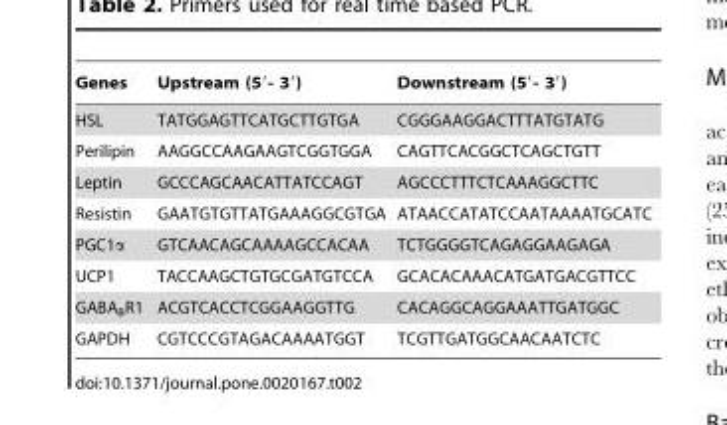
<table><thead><tr><td>Genes</td><td>Upstream (5′- 3′)</td><td>Downstream (5′- 3′)</td></tr></thead><tbody><tr><td>HSL</td><td>TATGGAGTTCATGCTTGTGA</td><td>CGGGAAGGACTTTATGTATG</td></tr><tr><td>Perilipin</td><td>AAGGCCAAGAAGTCGGTGGA</td><td>CAGTTCACGGCTCAGCTGTT</td></tr><tr><td>Leptin</td><td>GCCCAGCAACATTATCCAGT</td><td>AGCCCTTTCTCAAAGGCTTC</td></tr><tr><td>Resistin</td><td>GAATGTGTTATGAAAGGCGTGA</td><td>ATAACCATATCCAATAAAATGCATC</td></tr><tr><td>PGC1α</td><td>GTCAACAGCAAAAGCCACAA</td><td>TCTGGGGTCAGAGGAAGAGA</td></tr><tr><td>UCP1</td><td>TACCAAGCTGTGCGATGTCCA</td><td>GCACACAAACATGATGACGTTCC</td></tr><tr><td>GABA<sub>B</sub>R1</td><td>ACGTCACCTCGGAAGGTTG</td><td>CACAGGCAGGAAATTGATGGC</td></tr><tr><td>GAPDH</td><td>CGTCCCGTAGACAAAATGGT</td><td>TCGTTGATGGCAACAATCTC</td></tr></tbody></table>